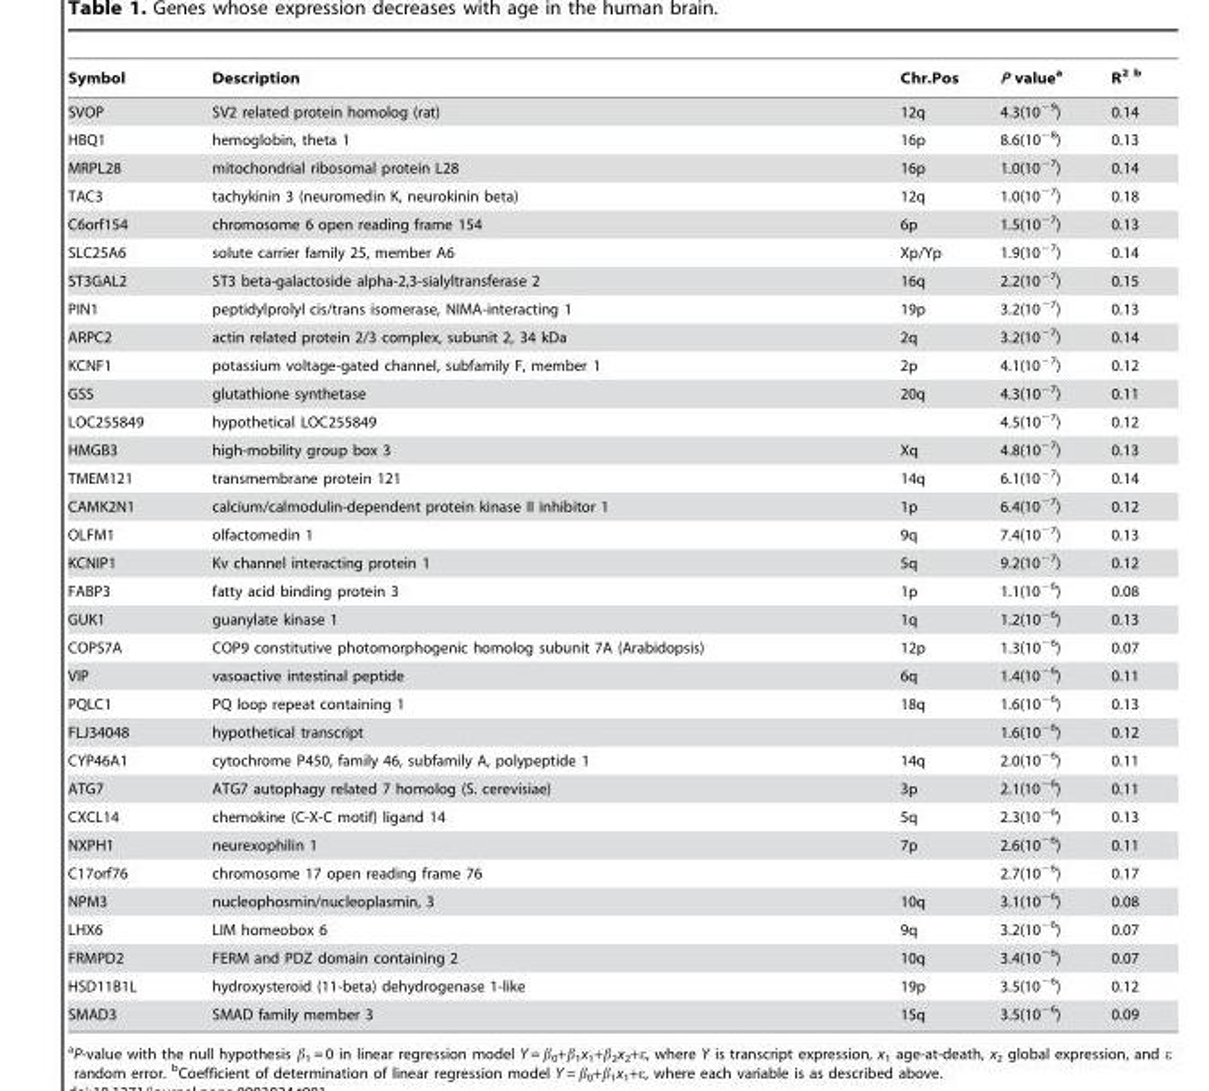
<table><thead><tr><td>Symbol</td><td>Description</td><td>Chr.Pos</td><td>P value<sup>a</sup></td><td>R<sup>2 b</sup></td></tr></thead><tbody><tr><td>SVOP</td><td>SV2 related protein homolog (rat)</td><td>12q</td><td>4.3(10<sup>−9</sup>)</td><td>0.14</td></tr><tr><td>HBQ1</td><td>hemoglobin, theta 1</td><td>16p</td><td>8.6(10<sup>−8</sup>)</td><td>0.13</td></tr><tr><td>MRPL28</td><td>mitochondrial ribosomal protein L28</td><td>16p</td><td>1.0(10<sup>−7</sup>)</td><td>0.14</td></tr><tr><td>TAC3</td><td>tachykinin 3 (neuromedin K, neurokinin beta)</td><td>12q</td><td>1.0(10<sup>−7</sup>)</td><td>0.18</td></tr><tr><td>C6orf154</td><td>chromosome 6 open reading frame 154</td><td>6p</td><td>1.5(10<sup>−7</sup>)</td><td>0.13</td></tr><tr><td>SLC25A6</td><td>solute carrier family 25, member A6</td><td>Xp/Yp</td><td>1.9(10<sup>−7</sup>)</td><td>0.14</td></tr><tr><td>ST3GAL2</td><td>ST3 beta-galactoside alpha-2,3-sialyltransferase 2</td><td>16q</td><td>2.2(10<sup>−7</sup>)</td><td>0.15</td></tr><tr><td>PIN1</td><td>peptidylprolyl cis/trans isomerase, NIMA-interacting 1</td><td>19p</td><td>3.2(10<sup>−7</sup>)</td><td>0.13</td></tr><tr><td>ARPC2</td><td>actin related protein 2/3 complex, subunit 2, 34 kDa</td><td>2q</td><td>3.2(10<sup>−7</sup>)</td><td>0.14</td></tr><tr><td>KCNF1</td><td>potassium voltage-gated channel, subfamily F, member 1</td><td>2p</td><td>4.1(10<sup>−7</sup>)</td><td>0.12</td></tr><tr><td>GSS</td><td>glutathione synthetase</td><td>20q</td><td>4.3(10<sup>−7</sup>)</td><td>0.11</td></tr><tr><td>LOC255849</td><td>hypothetical LOC255849</td><td></td><td>4.5(10<sup>−7</sup>)</td><td>0.12</td></tr><tr><td>HMGB3</td><td>high-mobility group box 3</td><td>Xq</td><td>4.8(10<sup>−7</sup>)</td><td>0.13</td></tr><tr><td>TMEM121</td><td>transmembrane protein 121</td><td>14q</td><td>6.1(10<sup>−7</sup>)</td><td>0.14</td></tr><tr><td>CAMK2N1</td><td>calcium/calmodulin-dependent protein kinase II inhibitor 1</td><td>1p</td><td>6.4(10<sup>−7</sup>)</td><td>0.12</td></tr><tr><td>OLFM1</td><td>olfactomedin 1</td><td>9q</td><td>7.4(10<sup>−7</sup>)</td><td>0.13</td></tr><tr><td>KCNIP1</td><td>Kv channel interacting protein 1</td><td>5q</td><td>9.2(10<sup>−7</sup>)</td><td>0.12</td></tr><tr><td>FABP3</td><td>fatty acid binding protein 3</td><td>1p</td><td>1.1(10<sup>−6</sup>)</td><td>0.08</td></tr><tr><td>GUK1</td><td>guanylate kinase 1</td><td>1q</td><td>1.2(10<sup>−6</sup>)</td><td>0.13</td></tr><tr><td>COPS7A</td><td>COP9 constitutive photomorphogenic homolog subunit 7A (Arabidopsis)</td><td>12p</td><td>1.3(10<sup>−6</sup>)</td><td>0.07</td></tr><tr><td>VIP</td><td>vasoactive intestinal peptide</td><td>6q</td><td>1.4(10<sup>−6</sup>)</td><td>0.11</td></tr><tr><td>PQLC1</td><td>PQ loop repeat containing 1</td><td>18q</td><td>1.6(10<sup>−6</sup>)</td><td>0.13</td></tr><tr><td>FLJ34048</td><td>hypothetical transcript</td><td></td><td>1.6(10<sup>−6</sup>)</td><td>0.12</td></tr><tr><td>CYP46A1</td><td>cytochrome P450, family 46, subfamily A, polypeptide 1</td><td>14q</td><td>2.0(10<sup>−6</sup>)</td><td>0.11</td></tr><tr><td>ATG7</td><td>ATG7 autophagy related 7 homolog (S. cerevisiae)</td><td>3p</td><td>2.1(10<sup>−6</sup>)</td><td>0.11</td></tr><tr><td>CXCL14</td><td>chemokine (C-X-C motif) ligand 14</td><td>5q</td><td>2.3(10<sup>−6</sup>)</td><td>0.13</td></tr><tr><td>NXPH1</td><td>neurexophilin 1</td><td>7p</td><td>2.6(10<sup>−6</sup>)</td><td>0.11</td></tr><tr><td>C17orf76</td><td>chromosome 17 open reading frame 76</td><td></td><td>2.7(10<sup>−6</sup>)</td><td>0.17</td></tr><tr><td>NPM3</td><td>nucleophosmin/nucleoplasmin, 3</td><td>10q</td><td>3.1(10<sup>−6</sup>)</td><td>0.08</td></tr><tr><td>LHX6</td><td>LIM homeobox 6</td><td>9q</td><td>3.2(10<sup>−6</sup>)</td><td>0.07</td></tr><tr><td>FRMPD2</td><td>FERM and PDZ domain containing 2</td><td>10q</td><td>3.4(10<sup>−6</sup>)</td><td>0.07</td></tr><tr><td>HSD11B1L</td><td>hydroxysteroid (11-beta) dehydrogenase 1-like</td><td>19p</td><td>3.5(10<sup>−6</sup>)</td><td>0.12</td></tr><tr><td>SMAD3</td><td>SMAD family member 3</td><td>15q</td><td>3.5(10<sup>−6</sup>)</td><td>0.09</td></tr></tbody></table>